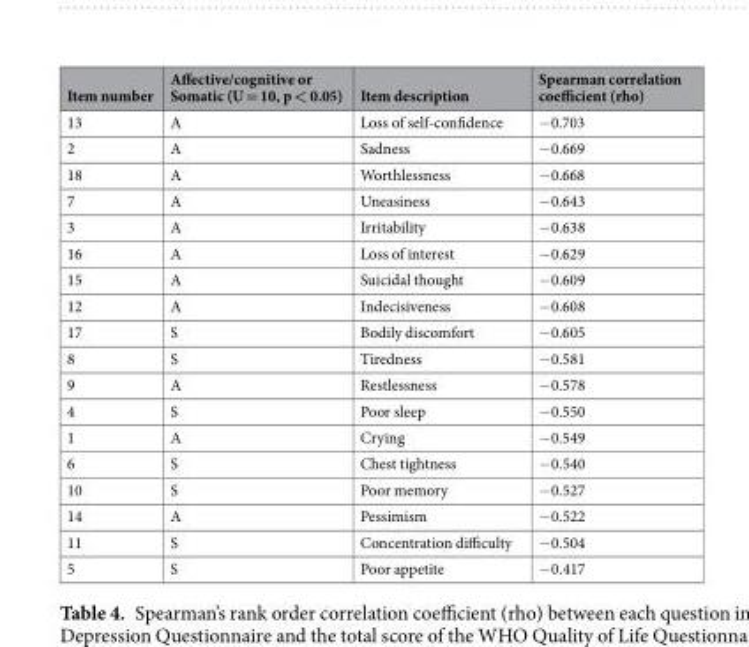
<table><thead><tr><td>Item number</td><td>Affective/cognitive or Somatic (U = 10, p &lt; 0.05)</td><td>Item description</td><td>Spearman correlation coefficient (rho)</td></tr></thead><tbody><tr><td>13</td><td>A</td><td>Loss of self-confidence</td><td>−0.703</td></tr><tr><td>2</td><td>A</td><td>Sadness</td><td>−0.669</td></tr><tr><td>18</td><td>A</td><td>Worthlessness</td><td>−0.668</td></tr><tr><td>7</td><td>A</td><td>Uneasiness</td><td>−0.643</td></tr><tr><td>3</td><td>A</td><td>Irritability</td><td>−0.638</td></tr><tr><td>16</td><td>A</td><td>Loss of interest</td><td>−0.629</td></tr><tr><td>15</td><td>A</td><td>Suicidal thought</td><td>−0.609</td></tr><tr><td>12</td><td>A</td><td>Indecisiveness</td><td>−0.608</td></tr><tr><td>17</td><td>S</td><td>Bodily discomfort</td><td>−0.605</td></tr><tr><td>8</td><td>S</td><td>Tiredness</td><td>−0.581</td></tr><tr><td>9</td><td>A</td><td>Restlessness</td><td>−0.578</td></tr><tr><td>4</td><td>S</td><td>Poor sleep</td><td>−0.550</td></tr><tr><td>1</td><td>A</td><td>Crying</td><td>−0.549</td></tr><tr><td>6</td><td>S</td><td>Chest tightness</td><td>−0.540</td></tr><tr><td>10</td><td>S</td><td>Poor memory</td><td>−0.527</td></tr><tr><td>14</td><td>A</td><td>Pessimism</td><td>−0.522</td></tr><tr><td>11</td><td>S</td><td>Concentration difficulty</td><td>−0.504</td></tr><tr><td>5</td><td>S</td><td>Poor appetite</td><td>−0.417</td></tr></tbody></table>